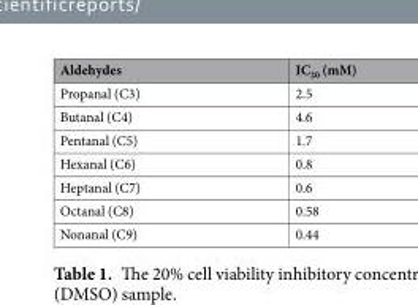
<table><thead><tr><td>Aldehydes</td><td>IC<sub>20</sub> (mM)</td></tr></thead><tbody><tr><td>Propanal (C3)</td><td>2.5</td></tr><tr><td>Butanal (C4)</td><td>4.6</td></tr><tr><td>Pentanal (C5)</td><td>1.7</td></tr><tr><td>Hexanal (C6)</td><td>0.8</td></tr><tr><td>Heptanal (C7)</td><td>0.6</td></tr><tr><td>Octanal (C8)</td><td>0.58</td></tr><tr><td>Nonanal (C9)</td><td>0.44</td></tr></tbody></table>